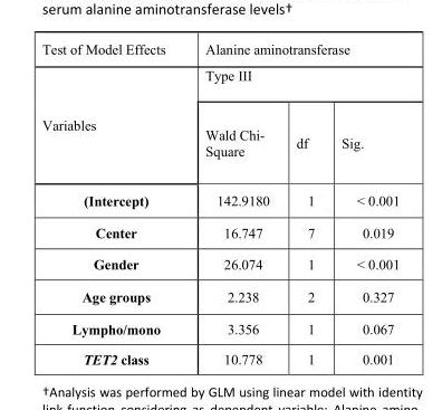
<table><thead><tr><td rowspan="3">Test of Model Effects Variables</td><td rowspan="2" colspan="3">Alanine aminotransferase Type III</td></tr><tr></tr><tr><td>Wald Chi- Square</td><td>df</td><td>Sig.</td></tr></thead><tbody><tr><td>(Intercept)</td><td>142.9180</td><td>1</td><td>&lt; 0.001</td></tr><tr><td>Center</td><td>16.747</td><td>7</td><td>0.019</td></tr><tr><td>Gender</td><td>26.074</td><td>1</td><td>&lt; 0.001</td></tr><tr><td>Age groups</td><td>2.238</td><td>2</td><td>0.327</td></tr><tr><td>Lympho/mono</td><td>3.356</td><td>1</td><td>0.067</td></tr><tr><td>TET2 class</td><td>10.778</td><td>1</td><td>0.001</td></tr></tbody></table>